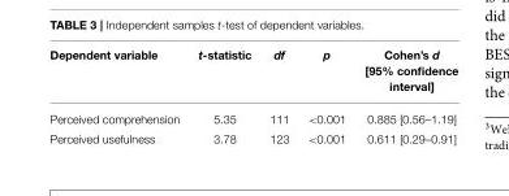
<table><thead><tr><td>Dependent variable</td><td>t-statistic</td><td>df</td><td>p</td><td>Cohen’s d [95% confidence interval]</td></tr></thead><tbody><tr><td>Perceived comprehension</td><td>5.35</td><td>111</td><td>&lt;0.001</td><td>0.885 [0.56–1.19]</td></tr><tr><td>Perceived usefulness</td><td>3.78</td><td>123</td><td>&lt;0.001</td><td>0.611 [0.29–0.91]</td></tr></tbody></table>